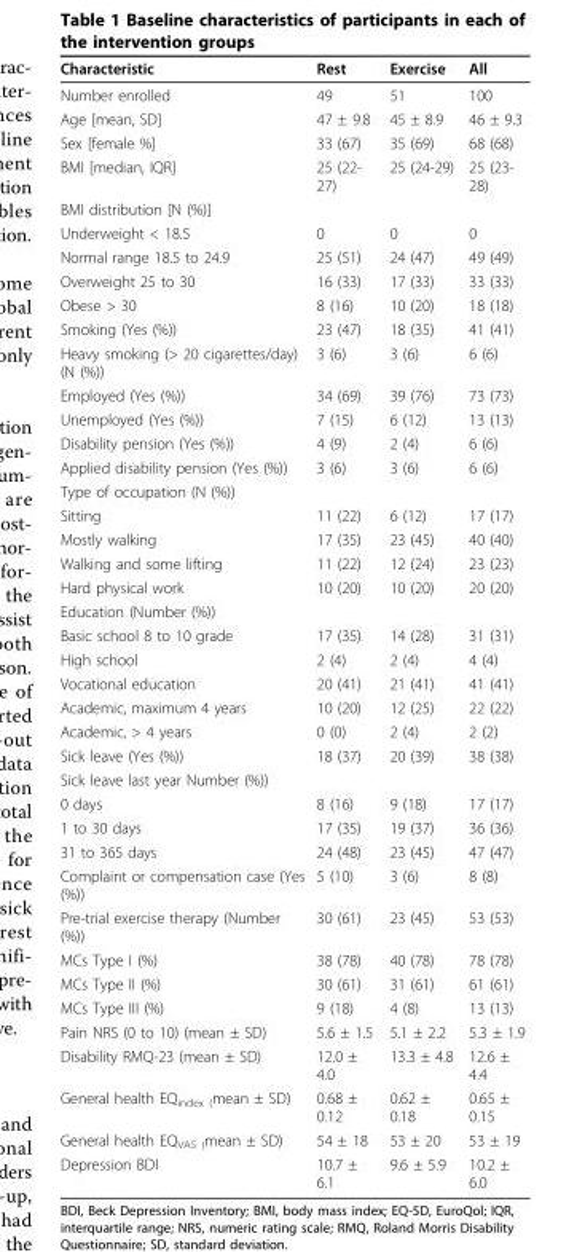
<table><thead><tr><td>Characteristic</td><td>Rest</td><td>Exercise</td><td>All</td></tr></thead><tbody><tr><td>Number enrolled</td><td>49</td><td>51</td><td>100</td></tr><tr><td>Age [mean, SD]</td><td>47 ± 9.8</td><td>45 ± 8.9</td><td>46 ± 9.3</td></tr><tr><td>Sex [female %]</td><td>33 (67)</td><td>35 (69)</td><td>68 (68)</td></tr><tr><td>BMI [median, IQR]</td><td>25 (22- 27)</td><td>25 (24-29)</td><td>25 (23- 28)</td></tr><tr><td colspan="4">BMI distribution [N (%)]</td></tr><tr><td>Underweight &lt; 18.5</td><td>0</td><td>0</td><td>0</td></tr><tr><td>Normal range 18.5 to 24.9</td><td>25 (51)</td><td>24 (47)</td><td>49 (49)</td></tr><tr><td>Overweight 25 to 30</td><td>16 (33)</td><td>17 (33)</td><td>33 (33)</td></tr><tr><td>Obese &gt; 30</td><td>8 (16)</td><td>10 (20)</td><td>18 (18)</td></tr><tr><td>Smoking (Yes (%))</td><td>23 (47)</td><td>18 (35)</td><td>41 (41)</td></tr><tr><td>Heavy smoking (&gt; 20 cigarettes/day) (N (%))</td><td>3 (6)</td><td>3 (6)</td><td>6 (6)</td></tr><tr><td>Employed (Yes (%))</td><td>34 (69)</td><td>39 (76)</td><td>73 (73)</td></tr><tr><td>Unemployed (Yes (%))</td><td>7 (15)</td><td>6 (12)</td><td>13 (13)</td></tr><tr><td>Disability pension (Yes (%))</td><td>4 (9)</td><td>2 (4)</td><td>6 (6)</td></tr><tr><td>Applied disability pension (Yes (%))</td><td>3 (6)</td><td>3 (6)</td><td>6 (6)</td></tr><tr><td colspan="4">Type of occupation (N (%))</td></tr><tr><td>Sitting</td><td>11 (22)</td><td>6 (12)</td><td>17 (17)</td></tr><tr><td>Mostly walking</td><td>17 (35)</td><td>23 (45)</td><td>40 (40)</td></tr><tr><td>Walking and some lifting</td><td>11 (22)</td><td>12 (24)</td><td>23 (23)</td></tr><tr><td>Hard physical work</td><td>10 (20)</td><td>10 (20)</td><td>20 (20)</td></tr><tr><td colspan="4">Education (Number (%))</td></tr><tr><td>Basic school 8 to 10 grade</td><td>17 (35)</td><td>14 (28)</td><td>31 (31)</td></tr><tr><td>High school</td><td>2 (4)</td><td>2 (4)</td><td>4 (4)</td></tr><tr><td>Vocational education</td><td>20 (41)</td><td>21 (41)</td><td>41 (41)</td></tr><tr><td>Academic, maximum 4 years</td><td>10 (20)</td><td>12 (25)</td><td>22 (22)</td></tr><tr><td>Academic, &gt; 4 years</td><td>0 (0)</td><td>2 (4)</td><td>2 (2)</td></tr><tr><td>Sick leave (Yes (%))</td><td>18 (37)</td><td>20 (39)</td><td>38 (38)</td></tr><tr><td colspan="4">Sick leave last year Number (%))</td></tr><tr><td>0 days</td><td>8 (16)</td><td>9 (18)</td><td>17 (17)</td></tr><tr><td>1 to 30 days</td><td>17 (35)</td><td>19 (37)</td><td>36 (36)</td></tr><tr><td>31 to 365 days</td><td>24 (48)</td><td>23 (45)</td><td>47 (47)</td></tr><tr><td>Complaint or compensation case (Yes (%))</td><td>5 (10)</td><td>3 (6)</td><td>8 (8)</td></tr><tr><td>Pre-trial exercise therapy (Number (%))</td><td>30 (61)</td><td>23 (45)</td><td>53 (53)</td></tr><tr><td>MCs Type I (%)</td><td>38 (78)</td><td>40 (78)</td><td>78 (78)</td></tr><tr><td>MCs Type II (%)</td><td>30 (61)</td><td>31 (61)</td><td>61 (61)</td></tr><tr><td>MCs Type III (%)</td><td>9 (18)</td><td>4 (8)</td><td>13 (13)</td></tr><tr><td>Pain NRS (0 to 10) (mean ± SD)</td><td>5.6 ± 1.5</td><td>5.1 ± 2.2</td><td>5.3 ± 1.9</td></tr><tr><td>Disability RMQ-23 (mean ± SD)</td><td>12.0 ± 4.0</td><td>13.3 ± 4.8</td><td>12.6 ± 4.4</td></tr><tr><td>General health EQ<sub>index (</sub>mean ± SD)</td><td>0.68 ± 0.12</td><td>0.62 ± 0.18</td><td>0.65 ± 0.15</td></tr><tr><td>General health EQ<sub>VAS (</sub>mean ± SD)</td><td>54 ± 18</td><td>53 ± 20</td><td>53 ± 19</td></tr><tr><td>Depression BDI</td><td>10.7 ± 6.1</td><td>9.6 ± 5.9</td><td>10.2 ± 6.0</td></tr></tbody></table>